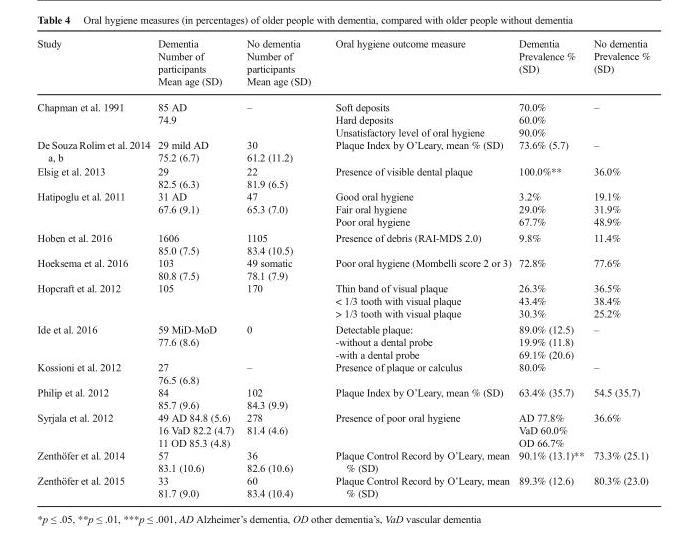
<table><thead><tr><td>Study</td><td>Dementia Number of participants Mean age (SD)</td><td>No dementia Number of participants Mean age (SD)</td><td>Oral hygiene outcome measure</td><td>Dementia Prevalence % (SD)</td><td>No dementia Prevalence % (SD)</td></tr></thead><tbody><tr><td>Chapman et al. 1991</td><td>85 AD 74.9</td><td>–</td><td>Soft deposits Hard deposits Unsatisfactory level of oral hygiene</td><td>70.0% 60.0% 90.0%</td><td>–</td></tr><tr><td>De Souza Rolim et al. 2014 a, b</td><td>29 mild AD 75.2 (6.7)</td><td>30 61.2 (11.2)</td><td>Plaque Index by O’Leary, mean % (SD)</td><td>73.6% (5.7)</td><td>–</td></tr><tr><td>Elsig et al. 2013</td><td>29 82.5 (6.3)</td><td>22 81.9 (6.5)</td><td>Presence of visible dental plaque</td><td>100.0%**</td><td>36.0%</td></tr><tr><td>Hatipoglu et al. 2011</td><td>31 AD 67.6 (9.1)</td><td>47 65.3 (7.0)</td><td>Good oral hygiene Fair oral hygiene Poor oral hygiene</td><td>3.2% 29.0% 67.7%</td><td>19.1% 31.9% 48.9%</td></tr><tr><td>Hoben et al. 2016</td><td>1606 85.0 (7.5)</td><td>1105 83.4 (10.5)</td><td>Presence of debris (RAI-MDS 2.0)</td><td>9.8%</td><td>11.4%</td></tr><tr><td>Hoeksema et al. 2016</td><td>103 80.8 (7.5)</td><td>49 somatic 78.1 (7.9)</td><td>Poor oral hygiene (Mombelli score 2 or 3)</td><td>72.8%</td><td>77.6%</td></tr><tr><td>Hopcraft et al. 2012</td><td>105</td><td>170</td><td>Thin band of visual plaque &lt; 1/3 tooth with visual plaque &gt; 1/3 tooth with visual plaque</td><td>26.3% 43.4% 30.3%</td><td>36.5% 38.4% 25.2%</td></tr><tr><td>Ide et al. 2016</td><td>59 MiD-MoD 77.6 (8.6)</td><td>0</td><td>Detectable plaque: -without a dental probe -with a dental probe</td><td>89.0% (12.5) 19.9% (11.8) 69.1% (20.6)</td><td>–</td></tr><tr><td>Kossioni et al. 2012</td><td>27 76.5 (6.8)</td><td>–</td><td>Presence of plaque or calculus</td><td>80.0%</td><td>–</td></tr><tr><td>Philip et al. 2012</td><td>84 85.7 (9.6)</td><td>102 84.3 (9.9)</td><td>Plaque Index by O’Leary, mean % (SD)</td><td>63.4% (35.7)</td><td>54.5 (35.7)</td></tr><tr><td>Syrjala et al. 2012</td><td>49 AD 84.8 (5.6) 16 VaD 82.2 (4.7) 11 OD 85.3 (4.8)</td><td>278 81.4 (4.6)</td><td>Presence of poor oral hygiene</td><td>AD 77.8% VaD 60.0% OD 66.7%</td><td>36.6%</td></tr><tr><td>Zenthöfer et al. 2014</td><td>57 83.1 (10.6)</td><td>36 82.6 (10.6)</td><td>Plaque Control Record by O’Leary, mean % (SD)</td><td>90.1% (13.1)**</td><td>73.3% (25.1)</td></tr><tr><td>Zenthöfer et al. 2015</td><td>33 81.7 (9.0)</td><td>60 83.4 (10.4)</td><td>Plaque Control Record by O’Leary, mean % (SD)</td><td>89.3% (12.6)</td><td>80.3% (23.0)</td></tr></tbody></table>